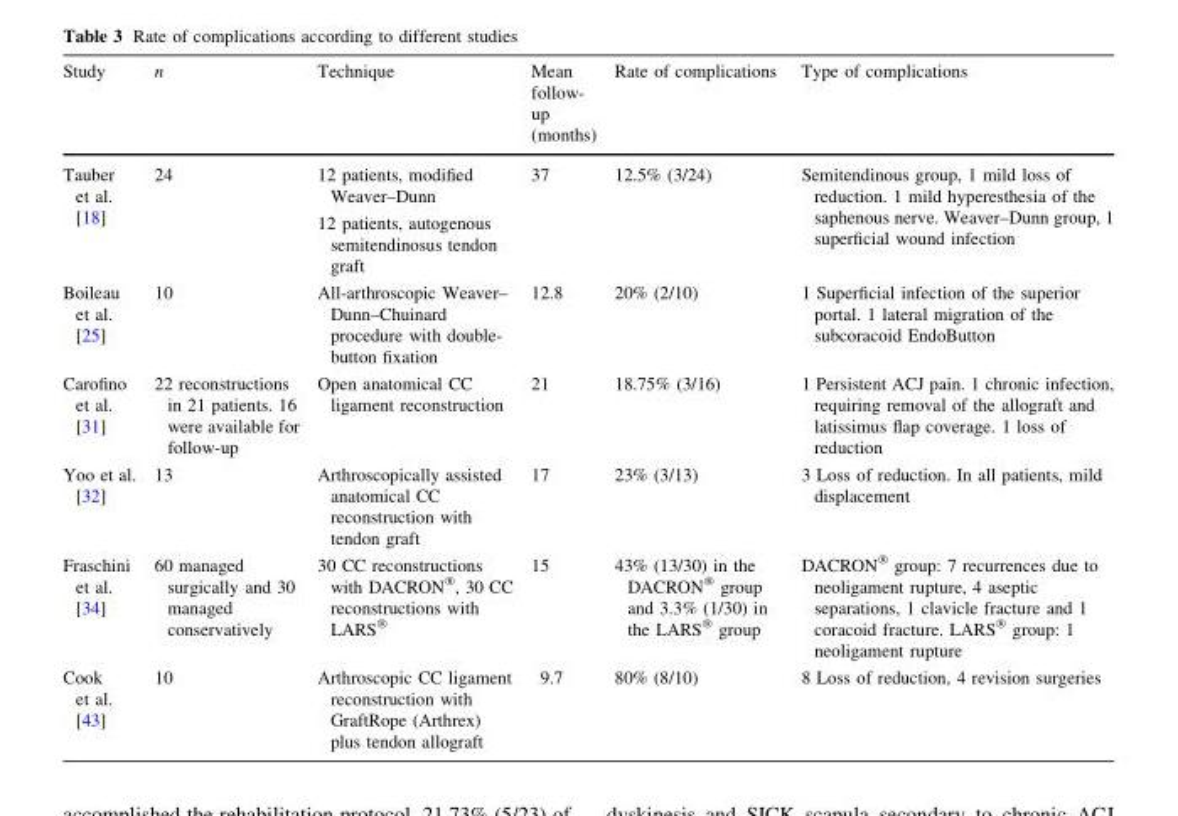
<table><thead><tr><td>Study</td><td>n</td><td>Technique</td><td>Mean follow- up (months)</td><td>Rate of complications</td><td>Type of complications</td></tr></thead><tbody><tr><td>Tauber et al. [18]</td><td>24</td><td>12 patients, modified Weaver–Dunn 12 patients, autogenous semitendinosus tendon graft</td><td>37</td><td>12.5% (3/24)</td><td>Semitendinous group, 1 mild loss of reduction. 1 mild hyperesthesia of the saphenous nerve. Weaver–Dunn group, 1 superficial wound infection</td></tr><tr><td>Boileau et al. [25]</td><td>10</td><td>All-arthroscopic Weaver– Dunn–Chuinard procedure with double- button fixation</td><td>12.8</td><td>20% (2/10)</td><td>1 Superficial infection of the superior portal. 1 lateral migration of the subcoracoid EndoButton</td></tr><tr><td>Carofino et al. [31]</td><td>22 reconstructions in 21 patients. 16 were available for follow-up</td><td>Open anatomical CC ligament reconstruction</td><td>21</td><td>18.75% (3/16)</td><td>1 Persistent ACJ pain. 1 chronic infection, requiring removal of the allograft and latissimus flap coverage. 1 loss of reduction</td></tr><tr><td>Yoo et al. [32]</td><td>13</td><td>Arthroscopically assisted anatomical CC reconstruction with tendon graft</td><td>17</td><td>23% (3/13)</td><td>3 Loss of reduction. In all patients, mild displacement</td></tr><tr><td>Fraschini et al. [34]</td><td>60 managed surgically and 30 managed conservatively</td><td>30 CC reconstructions with DACRON<sup>®</sup>, 30 CC reconstructions with LARS<sup>®</sup></td><td>15</td><td>43% (13/30) in the DACRON<sup>®</sup> group and 3.3% (1/30) in the LARS<sup>®</sup> group</td><td>DACRON<sup>®</sup> group: 7 recurrences due to neoligament rupture, 4 aseptic separations, 1 clavicle fracture and 1 coracoid fracture. LARS<sup>®</sup> group: 1 neoligament rupture</td></tr><tr><td>Cook et al. [43]</td><td>10</td><td>Arthroscopic CC ligament reconstruction with GraftRope (Arthrex) plus tendon allograft</td><td>9.7</td><td>80% (8/10)</td><td>8 Loss of reduction, 4 revision surgeries</td></tr></tbody></table>